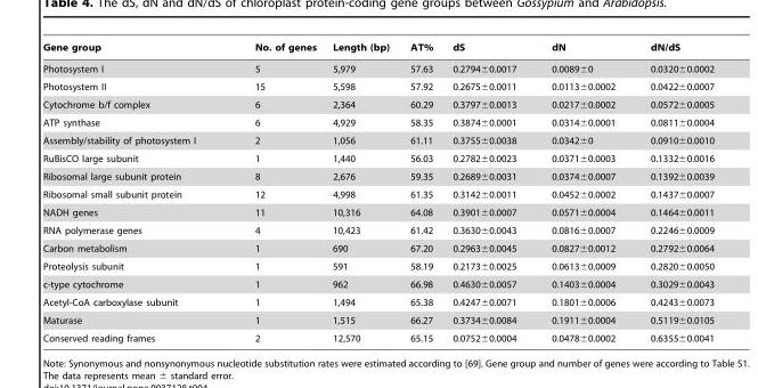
<table><thead><tr><td>Gene group</td><td>No. of genes</td><td>Length (bp)</td><td>AT%</td><td>dS</td><td>dN</td><td>dN/dS</td></tr></thead><tbody><tr><td>Photosystem I</td><td>5</td><td>5,979</td><td>57.63</td><td>0.2794±0.0017</td><td>0.0089±0</td><td>0.0320±0.0002</td></tr><tr><td>Photosystem II</td><td>15</td><td>5,598</td><td>57.92</td><td>0.2675±0.0011</td><td>0.0113±0.0002</td><td>0.0422±0.0007</td></tr><tr><td>Cytochrome b/f complex</td><td>6</td><td>2,364</td><td>60.29</td><td>0.3797±0.0013</td><td>0.0217±0.0002</td><td>0.0572±0.0005</td></tr><tr><td>ATP synthase</td><td>6</td><td>4,929</td><td>58.35</td><td>0.3874±0.0001</td><td>0.0314±0.0001</td><td>0.0811±0.0004</td></tr><tr><td>Assembly/stability of photosystem I</td><td>2</td><td>1,056</td><td>61.11</td><td>0.3755±0.0038</td><td>0.0342±0</td><td>0.0910±0.0010</td></tr><tr><td>RuBisCO large subunit</td><td>1</td><td>1,440</td><td>56.03</td><td>0.2782±0.0023</td><td>0.0371±0.0003</td><td>0.1332±0.0016</td></tr><tr><td>Ribosomal large subunit protein</td><td>8</td><td>2,676</td><td>59.35</td><td>0.2689±0.0031</td><td>0.0374±0.0007</td><td>0.1392±0.0039</td></tr><tr><td>Ribosomal small subunit protein</td><td>12</td><td>4,998</td><td>61.35</td><td>0.3142±0.0011</td><td>0.0452±0.0002</td><td>0.1437±0.0007</td></tr><tr><td>NADH genes</td><td>11</td><td>10,316</td><td>64.08</td><td>0.3901±0.0007</td><td>0.0571±0.0004</td><td>0.1464±0.0011</td></tr><tr><td>RNA polymerase genes</td><td>4</td><td>10,423</td><td>61.42</td><td>0.3630±0.0043</td><td>0.0816±0.0007</td><td>0.2246±0.0009</td></tr><tr><td>Carbon metabolism</td><td>1</td><td>690</td><td>67.20</td><td>0.2963±0.0045</td><td>0.0827±0.0012</td><td>0.2792±0.0064</td></tr><tr><td>Proteolysis subunit</td><td>1</td><td>591</td><td>58.19</td><td>0.2173±0.0025</td><td>0.0613±0.0009</td><td>0.2820±0.0050</td></tr><tr><td>c-type cytochrome</td><td>1</td><td>962</td><td>66.98</td><td>0.4630±0.0057</td><td>0.1403±0.0004</td><td>0.3029±0.0043</td></tr><tr><td>Acetyl-CoA carboxylase subunit</td><td>1</td><td>1,494</td><td>65.38</td><td>0.4247±0.0071</td><td>0.1801±0.0006</td><td>0.4243±0.0073</td></tr><tr><td>Maturase</td><td>1</td><td>1,515</td><td>66.27</td><td>0.3734±0.0084</td><td>0.1911±0.0004</td><td>0.5119±0.0105</td></tr><tr><td>Conserved reading frames</td><td>2</td><td>12,570</td><td>65.15</td><td>0.0752±0.0004</td><td>0.0478±0.0002</td><td>0.6355±0.0041</td></tr></tbody></table>